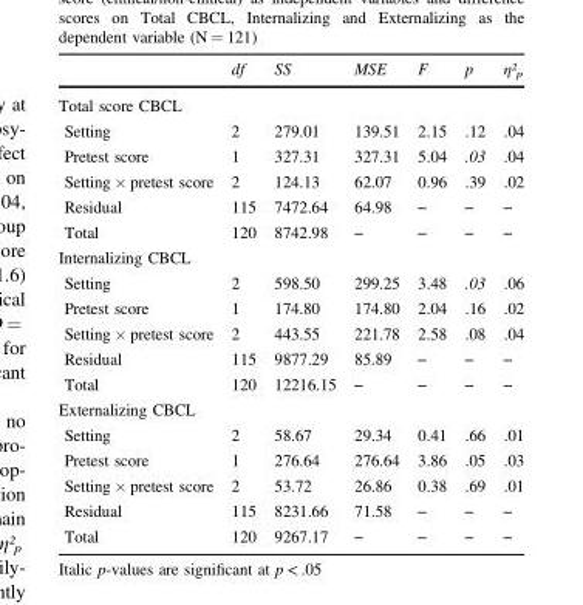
<table><thead><tr><td></td><td>df</td><td>SS</td><td>MSE</td><td>F</td><td>p</td><td>η²<sub>p</sub></td></tr></thead><tbody><tr><td colspan="7">Total score CBCL</td></tr><tr><td>Setting</td><td>2</td><td>279.01</td><td>139.51</td><td>2.15</td><td>.12</td><td>.04</td></tr><tr><td>Pretest score</td><td>1</td><td>327.31</td><td>327.31</td><td>5.04</td><td>.03</td><td>.04</td></tr><tr><td>Setting × pretest score</td><td>2</td><td>124.13</td><td>62.07</td><td>0.96</td><td>.39</td><td>.02</td></tr><tr><td>Residual</td><td>115</td><td>7472.64</td><td>64.98</td><td>–</td><td>–</td><td>–</td></tr><tr><td>Total</td><td>120</td><td>8742.98</td><td>–</td><td>–</td><td>–</td><td>–</td></tr><tr><td colspan="7">Internalizing CBCL</td></tr><tr><td>Setting</td><td>2</td><td>598.50</td><td>299.25</td><td>3.48</td><td>.03</td><td>.06</td></tr><tr><td>Pretest score</td><td>1</td><td>174.80</td><td>174.80</td><td>2.04</td><td>.16</td><td>.02</td></tr><tr><td>Setting × pretest score</td><td>2</td><td>443.55</td><td>221.78</td><td>2.58</td><td>.08</td><td>.04</td></tr><tr><td>Residual</td><td>115</td><td>9877.29</td><td>85.89</td><td>–</td><td>–</td><td>–</td></tr><tr><td>Total</td><td>120</td><td>12216.15</td><td>–</td><td>–</td><td>–</td><td>–</td></tr><tr><td colspan="7">Externalizing CBCL</td></tr><tr><td>Setting</td><td>2</td><td>58.67</td><td>29.34</td><td>0.41</td><td>.66</td><td>.01</td></tr><tr><td>Pretest score</td><td>1</td><td>276.64</td><td>276.64</td><td>3.86</td><td>.05</td><td>.03</td></tr><tr><td>Setting × pretest score</td><td>2</td><td>53.72</td><td>26.86</td><td>0.38</td><td>.69</td><td>.01</td></tr><tr><td>Residual</td><td>115</td><td>8231.66</td><td>71.58</td><td>–</td><td>–</td><td>–</td></tr><tr><td>Total</td><td>120</td><td>9267.17</td><td>–</td><td>–</td><td>–</td><td>–</td></tr></tbody></table>